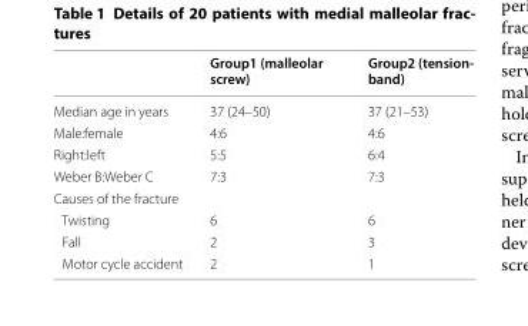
<table><thead><tr><td></td><td>Group1 (malleolar screw)</td><td>Group2 (tension- band)</td></tr></thead><tbody><tr><td>Median age in years</td><td>37 (24–50)</td><td>37 (21–53)</td></tr><tr><td>Male:female</td><td>4:6</td><td>4:6</td></tr><tr><td>Right:left</td><td>5:5</td><td>6:4</td></tr><tr><td>Weber B:Weber C</td><td>7:3</td><td>7:3</td></tr><tr><td colspan="3">Causes of the fracture</td></tr><tr><td>Twisting</td><td>6</td><td>6</td></tr><tr><td>Fall</td><td>2</td><td>3</td></tr><tr><td>Motor cycle accident</td><td>2</td><td>1</td></tr></tbody></table>